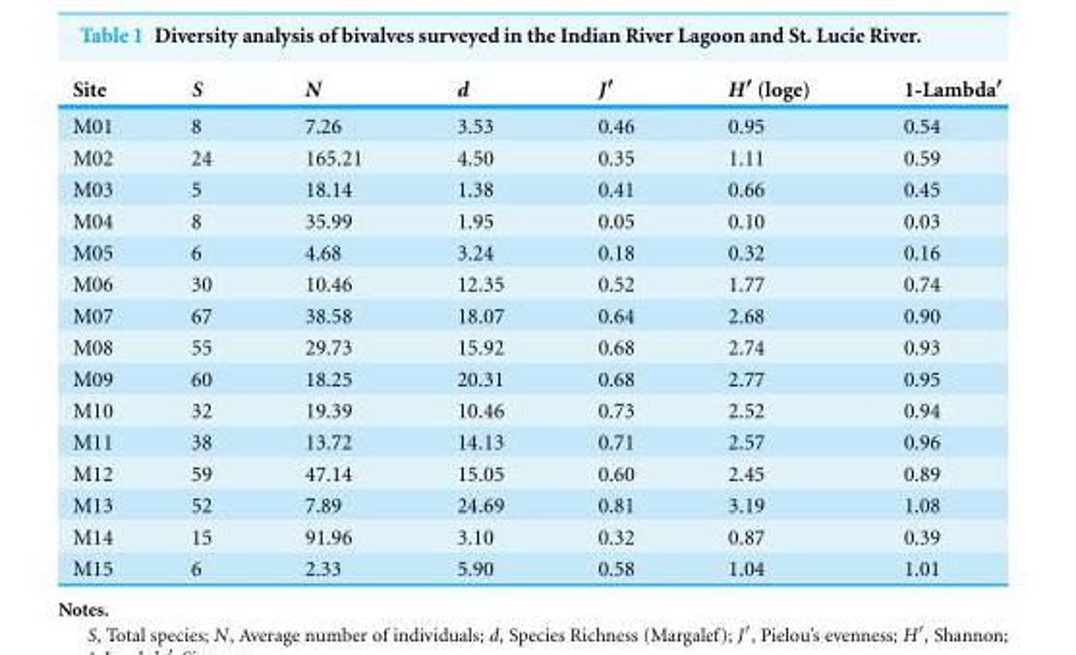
<table><thead><tr><td>Site</td><td>S</td><td>N</td><td>d</td><td>J′</td><td>H′ (loge)</td><td>1-Lambda′</td></tr></thead><tbody><tr><td>M01</td><td>8</td><td>7.26</td><td>3.53</td><td>0.46</td><td>0.95</td><td>0.54</td></tr><tr><td>M02</td><td>24</td><td>165.21</td><td>4.50</td><td>0.35</td><td>1.11</td><td>0.59</td></tr><tr><td>M03</td><td>5</td><td>18.14</td><td>1.38</td><td>0.41</td><td>0.66</td><td>0.45</td></tr><tr><td>M04</td><td>8</td><td>35.99</td><td>1.95</td><td>0.05</td><td>0.10</td><td>0.03</td></tr><tr><td>M05</td><td>6</td><td>4.68</td><td>3.24</td><td>0.18</td><td>0.32</td><td>0.16</td></tr><tr><td>M06</td><td>30</td><td>10.46</td><td>12.35</td><td>0.52</td><td>1.77</td><td>0.74</td></tr><tr><td>M07</td><td>67</td><td>38.58</td><td>18.07</td><td>0.64</td><td>2.68</td><td>0.90</td></tr><tr><td>M08</td><td>55</td><td>29.73</td><td>15.92</td><td>0.68</td><td>2.74</td><td>0.93</td></tr><tr><td>M09</td><td>60</td><td>18.25</td><td>20.31</td><td>0.68</td><td>2.77</td><td>0.95</td></tr><tr><td>M10</td><td>32</td><td>19.39</td><td>10.46</td><td>0.73</td><td>2.52</td><td>0.94</td></tr><tr><td>M11</td><td>38</td><td>13.72</td><td>14.13</td><td>0.71</td><td>2.57</td><td>0.96</td></tr><tr><td>M12</td><td>59</td><td>47.14</td><td>15.05</td><td>0.60</td><td>2.45</td><td>0.89</td></tr><tr><td>M13</td><td>52</td><td>7.89</td><td>24.69</td><td>0.81</td><td>3.19</td><td>1.08</td></tr><tr><td>M14</td><td>15</td><td>91.96</td><td>3.10</td><td>0.32</td><td>0.87</td><td>0.39</td></tr><tr><td>M15</td><td>6</td><td>2.33</td><td>5.90</td><td>0.58</td><td>1.04</td><td>1.01</td></tr></tbody></table>